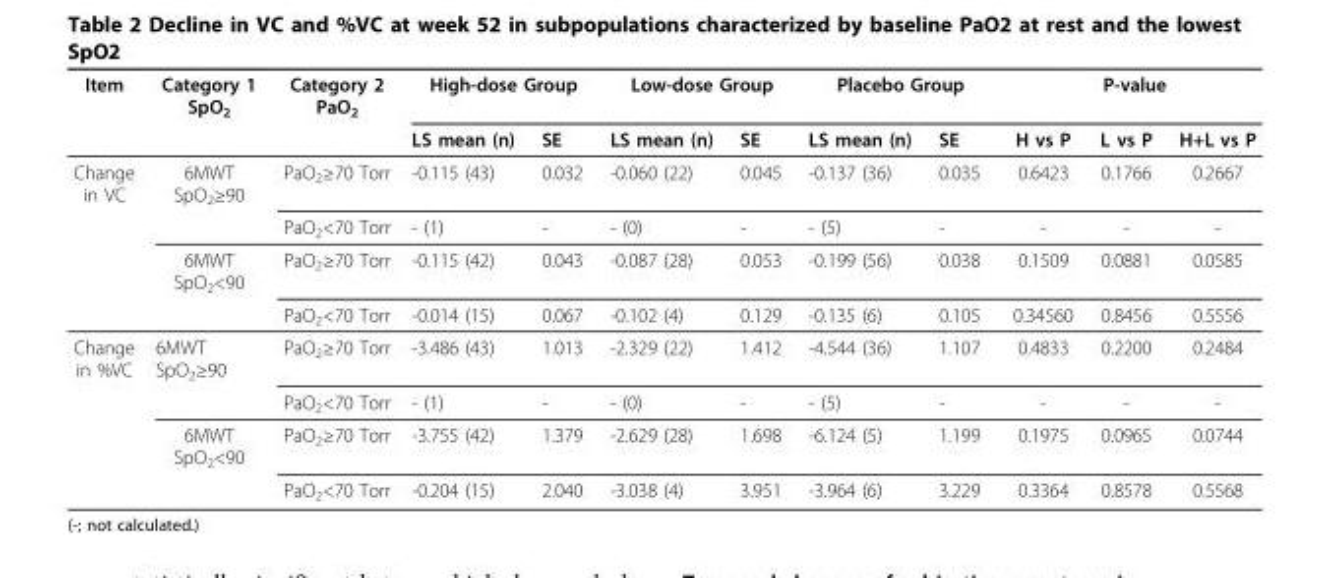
<table><thead><tr><td rowspan="2">Item</td><td rowspan="2">Category 1 SpO<sub>2</sub></td><td rowspan="2">Category 2 PaO<sub>2</sub></td><td colspan="2">High-dose Group</td><td colspan="2">Low-dose Group</td><td colspan="2">Placebo Group</td><td colspan="3">P-value</td></tr><tr><td>LS mean (n)</td><td>SE</td><td>LS mean (n)</td><td>SE</td><td>LS mean (n)</td><td>SE</td><td>H vs P</td><td>L vs P</td><td>H+L vs P</td></tr></thead><tbody><tr><td rowspan="4">Change in VC</td><td>6MWT SpO<sub>2</sub>≥90</td><td>PaO<sub>2</sub>≥70 Torr</td><td>-0.115 (43)</td><td>0.032</td><td>-0.060 (22)</td><td>0.045</td><td>-0.137 (36)</td><td>0.035</td><td>0.6423</td><td>0.1766</td><td>0.2667</td></tr><tr><td></td><td>PaO<sub>2</sub>&lt;70 Torr</td><td>- (1)</td><td>-</td><td>- (0)</td><td>-</td><td>- (5)</td><td>-</td><td>-</td><td>-</td><td>-</td></tr><tr><td>6MWT SpO<sub>2</sub>&lt;90</td><td>PaO<sub>2</sub>≥70 Torr</td><td>-0.115 (42)</td><td>0.043</td><td>-0.087 (28)</td><td>0.053</td><td>-0.199 (56)</td><td>0.038</td><td>0.1509</td><td>0.0881</td><td>0.0585</td></tr><tr><td></td><td>PaO<sub>2</sub>&lt;70 Torr</td><td>-0.014 (15)</td><td>0.067</td><td>-0.102 (4)</td><td>0.129</td><td>-0.135 (6)</td><td>0.105</td><td>0.34560</td><td>0.8456</td><td>0.5556</td></tr><tr><td rowspan="4">Change in %VC</td><td>6MWT SpO<sub>2</sub>≥90</td><td>PaO<sub>2</sub>≥70 Torr</td><td>-3.486 (43)</td><td>1.013</td><td>-2.329 (22)</td><td>1.412</td><td>-4.544 (36)</td><td>1.107</td><td>0.4833</td><td>0.2200</td><td>0.2484</td></tr><tr><td></td><td>PaO<sub>2</sub>&lt;70 Torr</td><td>- (1)</td><td>-</td><td>- (0)</td><td>-</td><td>- (5)</td><td>-</td><td>-</td><td>-</td><td>-</td></tr><tr><td>6MWT SpO<sub>2</sub>&lt;90</td><td>PaO<sub>2</sub>≥70 Torr</td><td>-3.755 (42)</td><td>1.379</td><td>-2.629 (28)</td><td>1.698</td><td>-6.124 (5)</td><td>1.199</td><td>0.1975</td><td>0.0965</td><td>0.0744</td></tr><tr><td></td><td>PaO<sub>2</sub>&lt;70 Torr</td><td>-0.204 (15)</td><td>2.040</td><td>-3.038 (4)</td><td>3.951</td><td>-3.964 (6)</td><td>3.229</td><td>0.3364</td><td>0.8578</td><td>0.5568</td></tr></tbody></table>